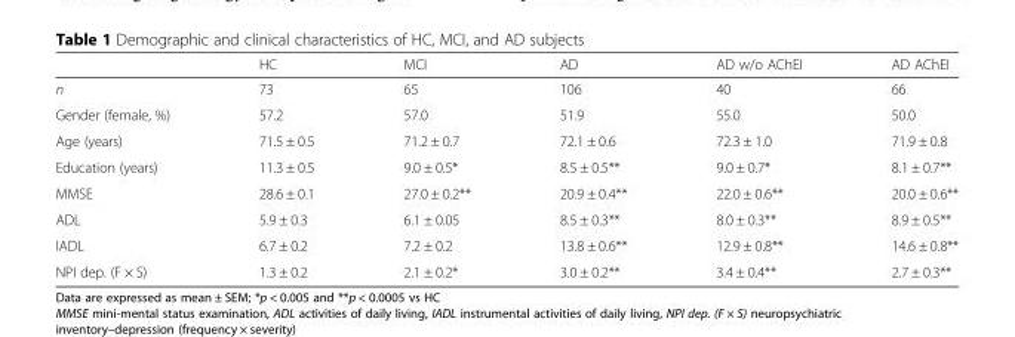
<table><thead><tr><td></td><td>HC</td><td>MCI</td><td>AD</td><td>AD w/o AChEI</td><td>AD AChEI</td></tr></thead><tbody><tr><td>n</td><td>73</td><td>65</td><td>106</td><td>40</td><td>66</td></tr><tr><td>Gender (female, %)</td><td>57.2</td><td>57.0</td><td>51.9</td><td>55.0</td><td>50.0</td></tr><tr><td>Age (years)</td><td>71.5 ± 0.5</td><td>71.2 ± 0.7</td><td>72.1 ± 0.6</td><td>72.3 ± 1.0</td><td>71.9 ± 0.8</td></tr><tr><td>Education (years)</td><td>11.3 ± 0.5</td><td>9.0 ± 0.5*</td><td>8.5 ± 0.5**</td><td>9.0 ± 0.7*</td><td>8.1 ± 0.7**</td></tr><tr><td>MMSE</td><td>28.6 ± 0.1</td><td>27.0 ± 0.2**</td><td>20.9 ± 0.4**</td><td>22.0 ± 0.6**</td><td>20.0 ± 0.6**</td></tr><tr><td>ADL</td><td>5.9 ± 0.3</td><td>6.1 ± 0.05</td><td>8.5 ± 0.3**</td><td>8.0 ± 0.3**</td><td>8.9 ± 0.5**</td></tr><tr><td>IADL</td><td>6.7 ± 0.2</td><td>7.2 ± 0.2</td><td>13.8 ± 0.6**</td><td>12.9 ± 0.8**</td><td>14.6 ± 0.8**</td></tr><tr><td>NPI dep. (F × S)</td><td>1.3 ± 0.2</td><td>2.1 ± 0.2*</td><td>3.0 ± 0.2**</td><td>3.4 ± 0.4**</td><td>2.7 ± 0.3**</td></tr></tbody></table>